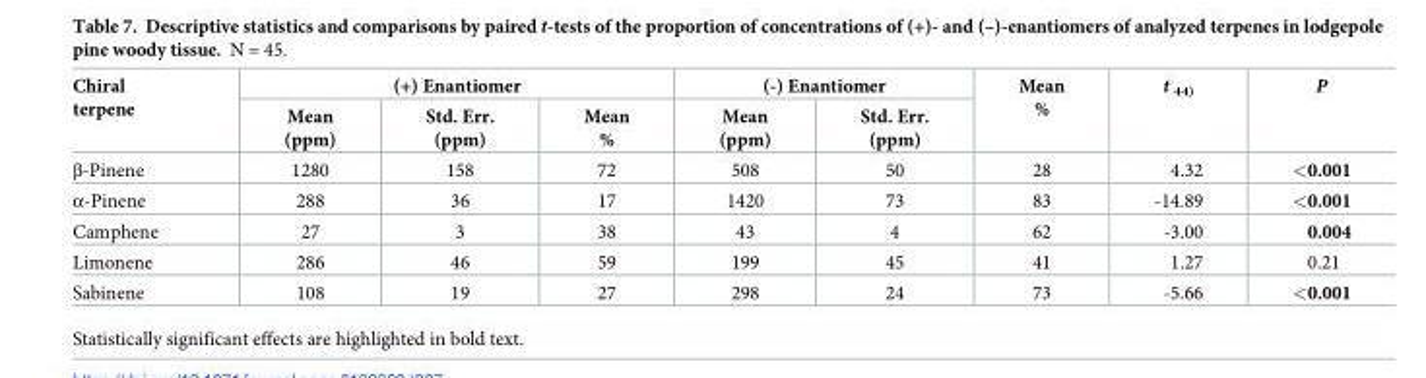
<table><thead><tr><td rowspan="2">Chiral terpene</td><td colspan="3">(+) Enantiomer</td><td colspan="2">(-) Enantiomer</td><td rowspan="2">Mean %</td><td rowspan="2">t <sub>44)</sub></td><td rowspan="2">P</td></tr><tr><td>Mean (ppm)</td><td>Std. Err. (ppm)</td><td>Mean %</td><td>Mean (ppm)</td><td>Std. Err. (ppm)</td></tr></thead><tbody><tr><td>β-Pinene</td><td>1280</td><td>158</td><td>72</td><td>508</td><td>50</td><td>28</td><td>4.32</td><td>&lt;0.001</td></tr><tr><td>α-Pinene</td><td>288</td><td>36</td><td>17</td><td>1420</td><td>73</td><td>83</td><td>-14.89</td><td>&lt;0.001</td></tr><tr><td>Camphene</td><td>27</td><td>3</td><td>38</td><td>43</td><td>4</td><td>62</td><td>-3.00</td><td>0.004</td></tr><tr><td>Limonene</td><td>286</td><td>46</td><td>59</td><td>199</td><td>45</td><td>41</td><td>1.27</td><td>0.21</td></tr><tr><td>Sabinene</td><td>108</td><td>19</td><td>27</td><td>298</td><td>24</td><td>73</td><td>-5.66</td><td>&lt;0.001</td></tr></tbody></table>